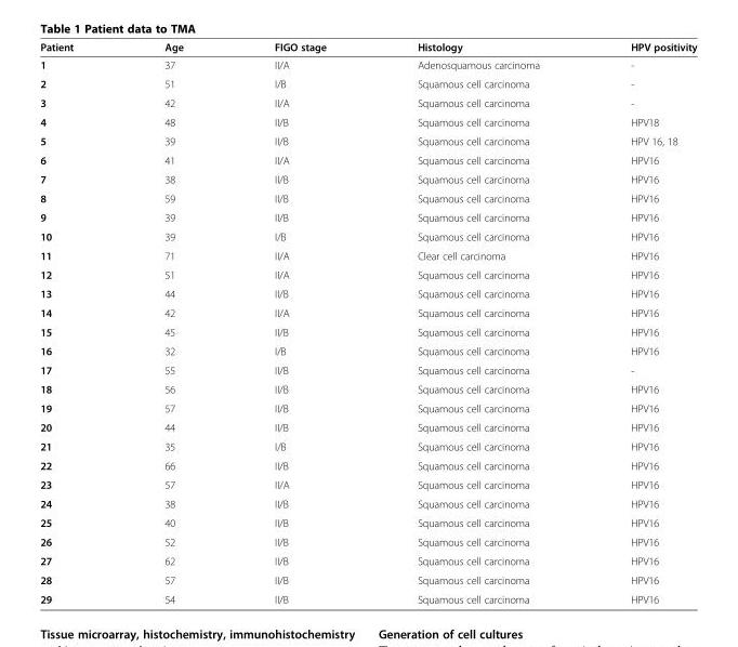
<table><thead><tr><td>Patient</td><td>Age</td><td>FIGO stage</td><td>Histology</td><td>HPV positivity</td></tr></thead><tbody><tr><td>1</td><td>37</td><td>II/A</td><td>Adenosquamous carcinoma</td><td>-</td></tr><tr><td>2</td><td>51</td><td>I/B</td><td>Squamous cell carcinoma</td><td>-</td></tr><tr><td>3</td><td>42</td><td>II/A</td><td>Squamous cell carcinoma</td><td>-</td></tr><tr><td>4</td><td>48</td><td>II/B</td><td>Squamous cell carcinoma</td><td>HPV18</td></tr><tr><td>5</td><td>39</td><td>II/B</td><td>Squamous cell carcinoma</td><td>HPV 16, 18</td></tr><tr><td>6</td><td>41</td><td>II/A</td><td>Squamous cell carcinoma</td><td>HPV16</td></tr><tr><td>7</td><td>38</td><td>II/B</td><td>Squamous cell carcinoma</td><td>HPV16</td></tr><tr><td>8</td><td>59</td><td>II/B</td><td>Squamous cell carcinoma</td><td>HPV16</td></tr><tr><td>9</td><td>39</td><td>II/B</td><td>Squamous cell carcinoma</td><td>HPV16</td></tr><tr><td>10</td><td>39</td><td>I/B</td><td>Squamous cell carcinoma</td><td>HPV16</td></tr><tr><td>11</td><td>71</td><td>II/A</td><td>Clear cell carcinoma</td><td>HPV16</td></tr><tr><td>12</td><td>51</td><td>II/A</td><td>Squamous cell carcinoma</td><td>HPV16</td></tr><tr><td>13</td><td>44</td><td>II/B</td><td>Squamous cell carcinoma</td><td>HPV16</td></tr><tr><td>14</td><td>42</td><td>II/A</td><td>Squamous cell carcinoma</td><td>HPV16</td></tr><tr><td>15</td><td>45</td><td>II/B</td><td>Squamous cell carcinoma</td><td>HPV16</td></tr><tr><td>16</td><td>32</td><td>I/B</td><td>Squamous cell carcinoma</td><td>HPV16</td></tr><tr><td>17</td><td>55</td><td>II/B</td><td>Squamous cell carcinoma</td><td>-</td></tr><tr><td>18</td><td>56</td><td>II/B</td><td>Squamous cell carcinoma</td><td>HPV16</td></tr><tr><td>19</td><td>57</td><td>II/B</td><td>Squamous cell carcinoma</td><td>HPV16</td></tr><tr><td>20</td><td>44</td><td>II/B</td><td>Squamous cell carcinoma</td><td>HPV16</td></tr><tr><td>21</td><td>35</td><td>I/B</td><td>Squamous cell carcinoma</td><td>HPV16</td></tr><tr><td>22</td><td>66</td><td>II/B</td><td>Squamous cell carcinoma</td><td>HPV16</td></tr><tr><td>23</td><td>57</td><td>II/A</td><td>Squamous cell carcinoma</td><td>HPV16</td></tr><tr><td>24</td><td>38</td><td>II/B</td><td>Squamous cell carcinoma</td><td>HPV16</td></tr><tr><td>25</td><td>40</td><td>II/B</td><td>Squamous cell carcinoma</td><td>HPV16</td></tr><tr><td>26</td><td>52</td><td>II/B</td><td>Squamous cell carcinoma</td><td>HPV16</td></tr><tr><td>27</td><td>62</td><td>II/B</td><td>Squamous cell carcinoma</td><td>HPV16</td></tr><tr><td>28</td><td>57</td><td>II/B</td><td>Squamous cell carcinoma</td><td>HPV16</td></tr><tr><td>29</td><td>54</td><td>II/B</td><td>Squamous cell carcinoma</td><td>HPV16</td></tr></tbody></table>